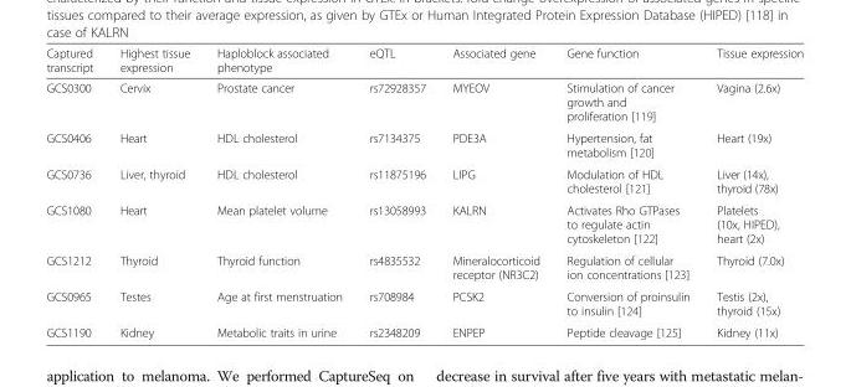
<table><thead><tr><td>Captured transcript</td><td>Highest tissue expression</td><td>Haploblock associated phenotype</td><td>eQTL</td><td>Associated gene</td><td>Gene function</td><td>Tissue expression</td></tr></thead><tbody><tr><td>GCS0300</td><td>Cervix</td><td>Prostate cancer</td><td>rs72928357</td><td>MYEOV</td><td>Stimulation of cancer growth and proliferation [119]</td><td>Vagina (2.6x)</td></tr><tr><td>GCS0406</td><td>Heart</td><td>HDL cholesterol</td><td>rs7134375</td><td>PDE3A</td><td>Hypertension, fat metabolism [120]</td><td>Heart (19x)</td></tr><tr><td>GCS0736</td><td>Liver, thyroid</td><td>HDL cholesterol</td><td>rs11875196</td><td>LIPG</td><td>Modulation of HDL cholesterol [121]</td><td>Liver (14x), thyroid (78x)</td></tr><tr><td>GCS1080</td><td>Heart</td><td>Mean platelet volume</td><td>rs13058993</td><td>KALRN</td><td>Activates Rho GTPases to regulate actin cytoskeleton [122]</td><td>Platelets (10x, HIPED), heart (2x)</td></tr><tr><td>GCS1212</td><td>Thyroid</td><td>Thyroid function</td><td>rs4835532</td><td>Mineralocorticoid receptor (NR3C2)</td><td>Regulation of cellular ion concentrations [123]</td><td>Thyroid (7.0x)</td></tr><tr><td>GCS0965</td><td>Testes</td><td>Age at first menstruation</td><td>rs708984</td><td>PCSK2</td><td>Conversion of proinsulin to insulin [124]</td><td>Testis (2x), thyroid (15x)</td></tr><tr><td>GCS1190</td><td>Kidney</td><td>Metabolic traits in urine</td><td>rs2348209</td><td>ENPEP</td><td>Peptide cleavage [125]</td><td>Kidney (11x)</td></tr></tbody></table>